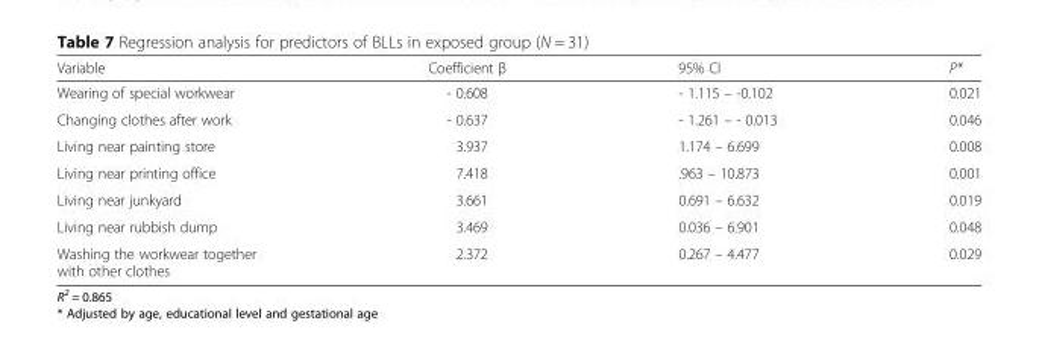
<table><thead><tr><td>Variable</td><td>Coefficient β</td><td>95% CI</td><td>P*</td></tr></thead><tbody><tr><td>Wearing of special workwear</td><td>- 0.608</td><td>- 1.115 – -0.102</td><td>0.021</td></tr><tr><td>Changing clothes after work</td><td>- 0.637</td><td>- 1.261 – - 0.013</td><td>0.046</td></tr><tr><td>Living near painting store</td><td>3.937</td><td>1.174 – 6.699</td><td>0.008</td></tr><tr><td>Living near printing office</td><td>7.418</td><td>.963 – 10.873</td><td>0.001</td></tr><tr><td>Living near junkyard</td><td>3.661</td><td>0.691 – 6.632</td><td>0.019</td></tr><tr><td>Living near rubbish dump</td><td>3.469</td><td>0.036 – 6.901</td><td>0.048</td></tr><tr><td>Washing the workwear together with other clothes</td><td>2.372</td><td>0.267 – 4.477</td><td>0.029</td></tr></tbody></table>